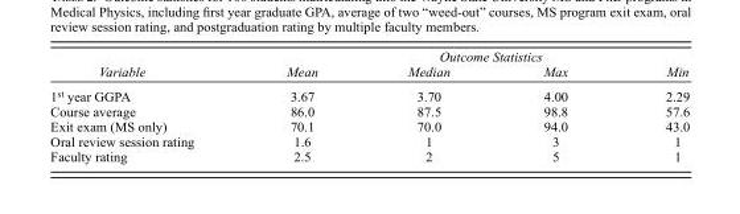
<table><thead><tr><td rowspan="2">Variable</td><td rowspan="2">Mean</td><td colspan="2">Outcome Statistics</td><td rowspan="2">Min</td></tr><tr><td>Median</td><td>Max</td></tr></thead><tbody><tr><td>1<sup>st</sup> year GGPA</td><td>3.67</td><td>3.70</td><td>4.00</td><td>2.29</td></tr><tr><td>Course average</td><td>86.0</td><td>87.5</td><td>98.8</td><td>57.6</td></tr><tr><td>Exit exam (MS only)</td><td>70.1</td><td>70.0</td><td>94.0</td><td>43.0</td></tr><tr><td>Oral review session rating</td><td>1.6</td><td>1</td><td>3</td><td>1</td></tr><tr><td>Faculty rating</td><td>2.5</td><td>2</td><td>5</td><td>1</td></tr></tbody></table>